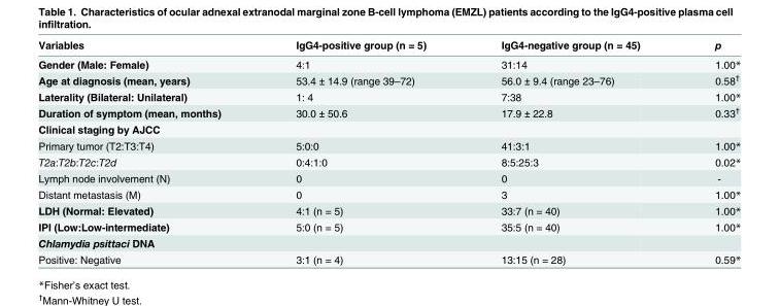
<table><thead><tr><td>Variables</td><td>IgG4-positive group (n = 5)</td><td>IgG4-negative group (n = 45)</td><td>p</td></tr></thead><tbody><tr><td>Gender (Male: Female)</td><td>4:1</td><td>31:14</td><td>1.00*</td></tr><tr><td>Age at diagnosis (mean, years)</td><td>53.4 ± 14.9 (range 39–72)</td><td>56.0 ± 9.4 (range 23–76)</td><td>0.58<sup>†</sup></td></tr><tr><td>Laterality (Bilateral: Unilateral)</td><td>1: 4</td><td>7:38</td><td>1.00*</td></tr><tr><td>Duration of symptom (mean, months)</td><td>30.0 ± 50.6</td><td>17.9 ± 22.8</td><td>0.33<sup>†</sup></td></tr><tr><td colspan="4">Clinical staging by AJCC</td></tr><tr><td>Primary tumor (T2:T3:T4)</td><td>5:0:0</td><td>41:3:1</td><td>1.00*</td></tr><tr><td>T2a:T2b:T2c:T2d</td><td>0:4:1:0</td><td>8:5:25:3</td><td>0.02*</td></tr><tr><td>Lymph node involvement (N)</td><td>0</td><td>0</td><td>-</td></tr><tr><td>Distant metastasis (M)</td><td>0</td><td>3</td><td>1.00*</td></tr><tr><td>LDH (Normal: Elevated)</td><td>4:1 (n = 5)</td><td>33:7 (n = 40)</td><td>1.00*</td></tr><tr><td>IPI (Low:Low-intermediate)</td><td>5:0 (n = 5)</td><td>35:5 (n = 40)</td><td>1.00*</td></tr><tr><td colspan="4">Chlamydia psittaci DNA</td></tr><tr><td>Positive: Negative</td><td>3:1 (n = 4)</td><td>13:15 (n = 28)</td><td>0.59*</td></tr></tbody></table>